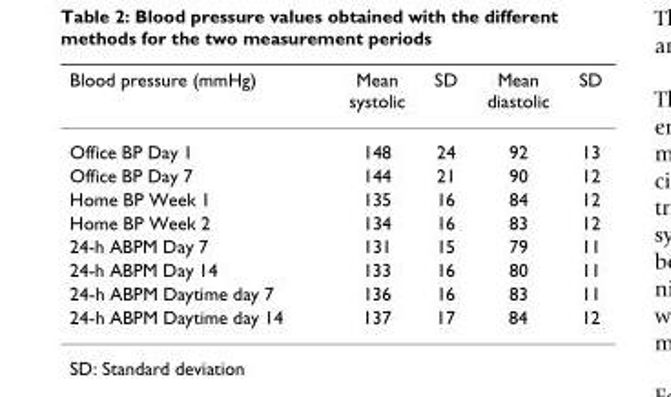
<table><thead><tr><td>Blood pressure (mmHg)</td><td>Mean systolic</td><td>SD</td><td>Mean diastolic</td><td>SD</td></tr></thead><tbody><tr><td>Office BP Day 1</td><td>148</td><td>24</td><td>92</td><td>13</td></tr><tr><td>Office BP Day 7</td><td>144</td><td>21</td><td>90</td><td>12</td></tr><tr><td>Home BP Week 1</td><td>135</td><td>16</td><td>84</td><td>12</td></tr><tr><td>Home BP Week 2</td><td>134</td><td>16</td><td>83</td><td>12</td></tr><tr><td>24-h ABPM Day 7</td><td>131</td><td>15</td><td>79</td><td>11</td></tr><tr><td>24-h ABPM Day 14</td><td>133</td><td>16</td><td>80</td><td>11</td></tr><tr><td>24-h ABPM Daytime day 7</td><td>136</td><td>16</td><td>83</td><td>11</td></tr><tr><td>24-h ABPM Daytime day 14</td><td>137</td><td>17</td><td>84</td><td>12</td></tr></tbody></table>